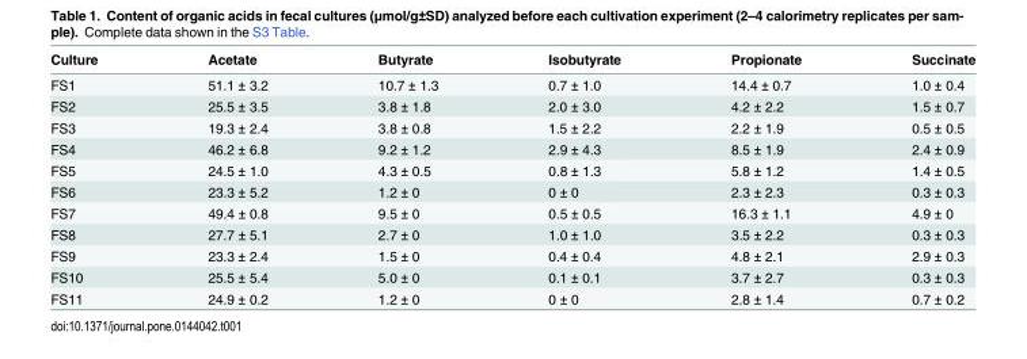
<table><thead><tr><td>Culture</td><td>Acetate</td><td>Butyrate</td><td>Isobutyrate</td><td>Propionate</td><td>Succinate</td></tr></thead><tbody><tr><td>FS1</td><td>51.1 ± 3.2</td><td>10.7 ± 1.3</td><td>0.7 ± 1.0</td><td>14.4 ± 0.7</td><td>1.0 ± 0.4</td></tr><tr><td>FS2</td><td>25.5 ± 3.5</td><td>3.8 ± 1.8</td><td>2.0 ± 3.0</td><td>4.2 ± 2.2</td><td>1.5 ± 0.7</td></tr><tr><td>FS3</td><td>19.3 ± 2.4</td><td>3.8 ± 0.8</td><td>1.5 ± 2.2</td><td>2.2 ± 1.9</td><td>0.5 ± 0.5</td></tr><tr><td>FS4</td><td>46.2 ± 6.8</td><td>9.2 ± 1.2</td><td>2.9 ± 4.3</td><td>8.5 ± 1.9</td><td>2.4 ± 0.9</td></tr><tr><td>FS5</td><td>24.5 ± 1.0</td><td>4.3 ± 0.5</td><td>0.8 ± 1.3</td><td>5.8 ± 1.2</td><td>1.4 ± 0.5</td></tr><tr><td>FS6</td><td>23.3 ± 5.2</td><td>1.2 ± 0</td><td>0 ± 0</td><td>2.3 ± 2.3</td><td>0.3 ± 0.3</td></tr><tr><td>FS7</td><td>49.4 ± 0.8</td><td>9.5 ± 0</td><td>0.5 ± 0.5</td><td>16.3 ± 1.1</td><td>4.9 ± 0</td></tr><tr><td>FS8</td><td>27.7 ± 5.1</td><td>2.7 ± 0</td><td>1.0 ± 1.0</td><td>3.5 ± 2.2</td><td>0.3 ± 0.3</td></tr><tr><td>FS9</td><td>23.3 ± 2.4</td><td>1.5 ± 0</td><td>0.4 ± 0.4</td><td>4.8 ± 2.1</td><td>2.9 ± 0.3</td></tr><tr><td>FS10</td><td>25.5 ± 5.4</td><td>5.0 ± 0</td><td>0.1 ± 0.1</td><td>3.7 ± 2.7</td><td>0.3 ± 0.3</td></tr><tr><td>FS11</td><td>24.9 ± 0.2</td><td>1.2 ± 0</td><td>0 ± 0</td><td>2.8 ± 1.4</td><td>0.7 ± 0.2</td></tr></tbody></table>